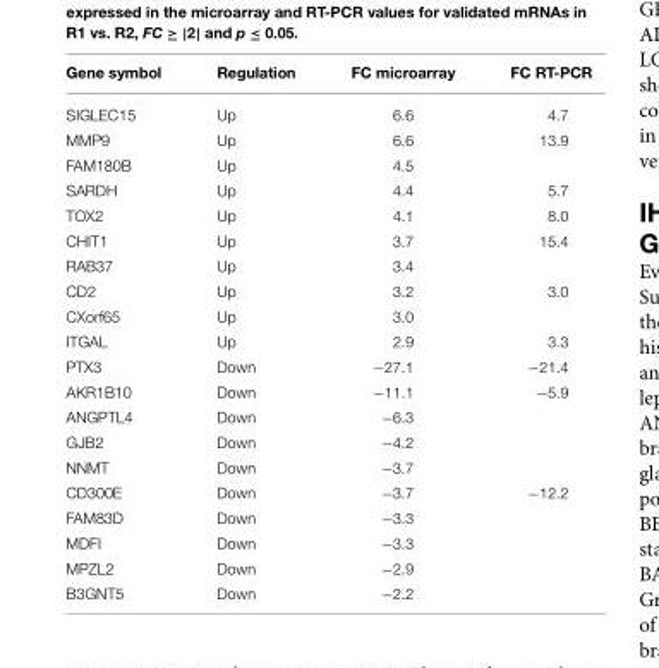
<table><thead><tr><td>Gene symbol</td><td>Regulation</td><td>FC microarray</td><td>FC RT-PCR</td></tr></thead><tbody><tr><td>SIGLEC15</td><td>Up</td><td>6.6</td><td>4.7</td></tr><tr><td>MMP9</td><td>Up</td><td>6.6</td><td>13.9</td></tr><tr><td>FAM180B</td><td>Up</td><td>4.5</td><td></td></tr><tr><td>SARDH</td><td>Up</td><td>4.4</td><td>5.7</td></tr><tr><td>TOX2</td><td>Up</td><td>4.1</td><td>8.0</td></tr><tr><td>CHIT1</td><td>Up</td><td>3.7</td><td>15.4</td></tr><tr><td>RAB37</td><td>Up</td><td>3.4</td><td></td></tr><tr><td>CD2</td><td>Up</td><td>3.2</td><td>3.0</td></tr><tr><td>CXorf65</td><td>Up</td><td>3.0</td><td></td></tr><tr><td>ITGAL</td><td>Up</td><td>2.9</td><td>3.3</td></tr><tr><td>PTX3</td><td>Down</td><td>−27.1</td><td>−21.4</td></tr><tr><td>AKR1B10</td><td>Down</td><td>−11.1</td><td>−5.9</td></tr><tr><td>ANGPTL4</td><td>Down</td><td>−6.3</td><td></td></tr><tr><td>GJB2</td><td>Down</td><td>−4.2</td><td></td></tr><tr><td>NNMT</td><td>Down</td><td>−3.7</td><td></td></tr><tr><td>CD300E</td><td>Down</td><td>−3.7</td><td>−12.2</td></tr><tr><td>FAM83D</td><td>Down</td><td>−3.3</td><td></td></tr><tr><td>MDFI</td><td>Down</td><td>−3.3</td><td></td></tr><tr><td>MPZL2</td><td>Down</td><td>−2.9</td><td></td></tr><tr><td>B3GNT5</td><td>Down</td><td>−2.2</td><td></td></tr></tbody></table>